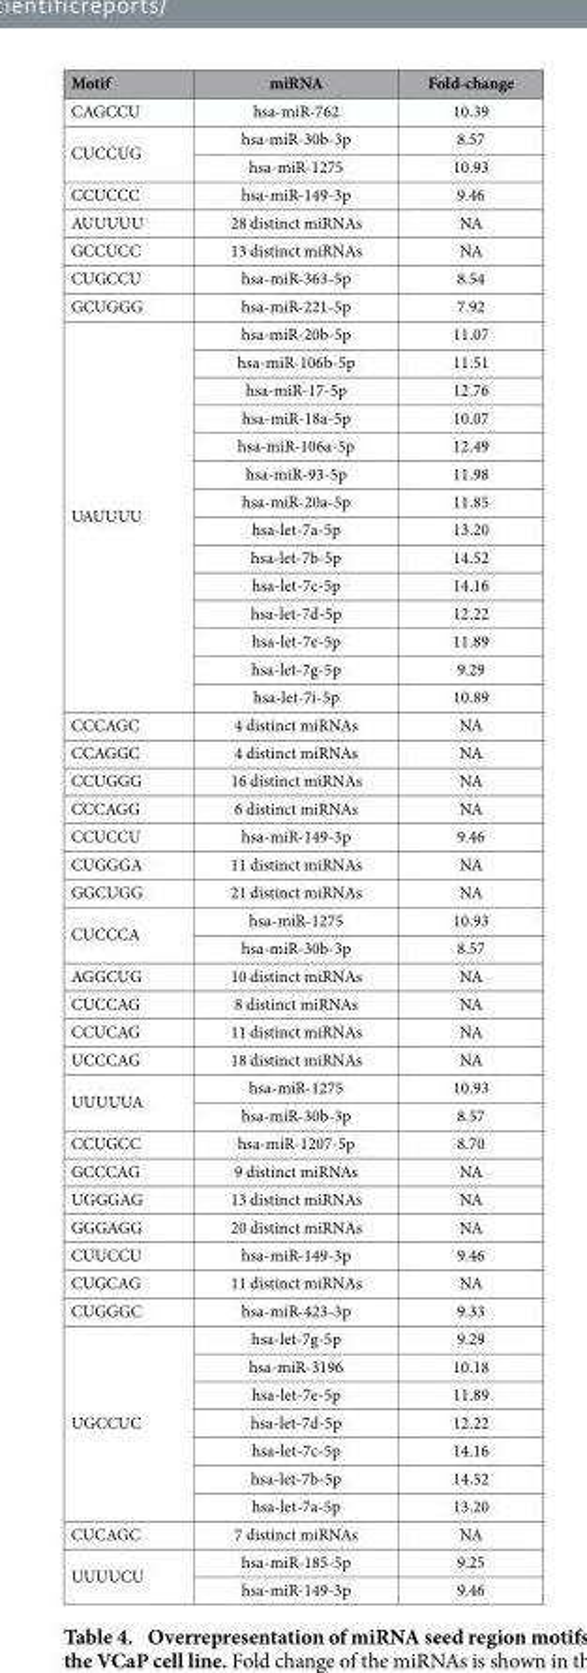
<table><thead><tr><td>Motif</td><td>miRNA</td><td>Fold-change</td></tr></thead><tbody><tr><td>CAGCCU</td><td>hsa-miR-762</td><td>10.39</td></tr><tr><td rowspan="2">CUCCUG</td><td>hsa-miR-30b-3p</td><td>8.57</td></tr><tr><td>hsa-miR-1275</td><td>10.93</td></tr><tr><td>CCUCCC</td><td>hsa-miR-149-3p</td><td>9.46</td></tr><tr><td>AUUUUU</td><td>28 distinct miRNAs</td><td>NA</td></tr><tr><td>GCCUCC</td><td>13 distinct miRNAs</td><td>NA</td></tr><tr><td>CUGCCU</td><td>hsa-miR-363-5p</td><td>8.54</td></tr><tr><td>GCUGGG</td><td>hsa-miR-221-5p</td><td>7.92</td></tr><tr><td rowspan="14">UAUUUU</td><td>hsa-miR-20b-5p</td><td>11.07</td></tr><tr><td>hsa-miR-106b-5p</td><td>11.51</td></tr><tr><td>hsa-miR-17-5p</td><td>12.76</td></tr><tr><td>hsa-miR-18a-5p</td><td>10.07</td></tr><tr><td>hsa-miR-106a-5p</td><td>12.49</td></tr><tr><td>hsa-miR-93-5p</td><td>11.98</td></tr><tr><td>hsa-miR-20a-5p</td><td>11.85</td></tr><tr><td>hsa-let-7a-5p</td><td>13.20</td></tr><tr><td>hsa-let-7b-5p</td><td>14.52</td></tr><tr><td>hsa-let-7c-5p</td><td>14.16</td></tr><tr><td>hsa-let-7d-5p</td><td>12.22</td></tr><tr><td>hsa-let-7e-5p</td><td>11.89</td></tr><tr><td>hsa-let-7g-5p</td><td>9.29</td></tr><tr><td>hsa-let-7i-5p</td><td>10.89</td></tr><tr><td>CCCAGC</td><td>4 distinct miRNAs</td><td>NA</td></tr><tr><td>CCAGGC</td><td>4 distinct miRNAs</td><td>NA</td></tr><tr><td>CCUGGG</td><td>16 distinct miRNAs</td><td>NA</td></tr><tr><td>CCCAGG</td><td>6 distinct miRNAs</td><td>NA</td></tr><tr><td>CCUCCU</td><td>hsa-miR-149-3p</td><td>9.46</td></tr><tr><td>CUGGGA</td><td>11 distinct miRNAs</td><td>NA</td></tr><tr><td>GGCUGG</td><td>21 distinct miRNAs</td><td>NA</td></tr><tr><td rowspan="2">CUCCCA</td><td>hsa-miR-1275</td><td>10.93</td></tr><tr><td>hsa-miR-30b-3p</td><td>8.57</td></tr><tr><td>AGGCUG</td><td>10 distinct miRNAs</td><td>NA</td></tr><tr><td>CUCCAG</td><td>8 distinct miRNAs</td><td>NA</td></tr><tr><td>CCUCAG</td><td>11 distinct miRNAs</td><td>NA</td></tr><tr><td>UCCCAG</td><td>18 distinct miRNAs</td><td>NA</td></tr><tr><td rowspan="2">UUUUUA</td><td>hsa-miR-1275</td><td>10.93</td></tr><tr><td>hsa-miR-30b-3p</td><td>8.57</td></tr><tr><td>CCUGCC</td><td>hsa-miR-1207-5p</td><td>8.70</td></tr><tr><td>GCCCAG</td><td>9 distinct miRNAs</td><td>NA</td></tr><tr><td>UGGGAG</td><td>13 distinct miRNAs</td><td>NA</td></tr><tr><td>GGGAGG</td><td>20 distinct miRNAs</td><td>NA</td></tr><tr><td>CUUCCU</td><td>hsa-miR-149-3p</td><td>9.46</td></tr><tr><td>CUGCAG</td><td>11 distinct miRNAs</td><td>NA</td></tr><tr><td>CUGGGC</td><td>hsa-miR-423-3p</td><td>9.33</td></tr><tr><td rowspan="7">UGCCUC</td><td>hsa-let-7g-5p</td><td>9.29</td></tr><tr><td>hsa-miR-3196</td><td>10.18</td></tr><tr><td>hsa-let-7e-5p</td><td>11.89</td></tr><tr><td>hsa-let-7d-5p</td><td>12.22</td></tr><tr><td>hsa-let-7c-5p</td><td>14.16</td></tr><tr><td>hsa-let-7b-5p</td><td>14.52</td></tr><tr><td>hsa-let-7a-5p</td><td>13.20</td></tr><tr><td>CUCAGC</td><td>7 distinct miRNAs</td><td>NA</td></tr><tr><td rowspan="2">UUUUCU</td><td>hsa-miR-185-5p</td><td>9.25</td></tr><tr><td>hsa-miR-149-3p</td><td>9.46</td></tr></tbody></table>